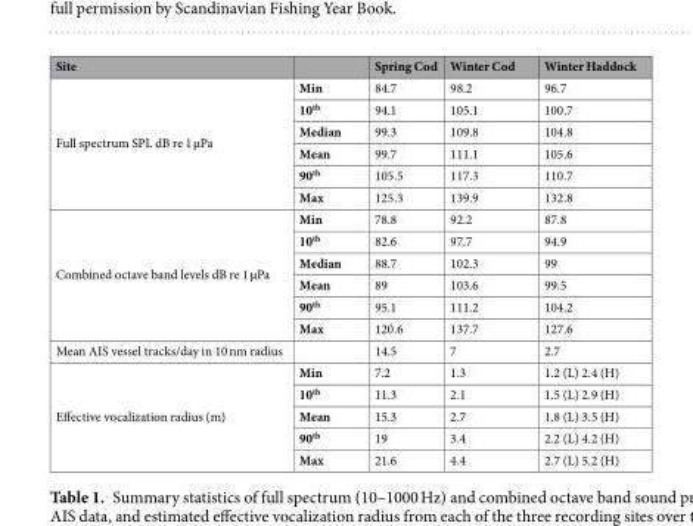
<table><thead><tr><td>Site</td><td></td><td>Spring Cod</td><td>Winter Cod</td><td>Winter Haddock</td></tr></thead><tbody><tr><td rowspan="6">Full spectrum SPL dB re 1 µPa</td><td>Min</td><td>84.7</td><td>98.2</td><td>96.7</td></tr><tr><td>10<sup>th</sup></td><td>94.1</td><td>105.1</td><td>100.7</td></tr><tr><td>Median</td><td>99.3</td><td>109.8</td><td>104.8</td></tr><tr><td>Mean</td><td>99.7</td><td>111.1</td><td>105.6</td></tr><tr><td>90<sup>th</sup></td><td>105.5</td><td>117.3</td><td>110.7</td></tr><tr><td>Max</td><td>125.3</td><td>139.9</td><td>132.8</td></tr><tr><td rowspan="6">Combined octave band levels dB re 1 µPa</td><td>Min</td><td>78.8</td><td>92.2</td><td>87.8</td></tr><tr><td>10<sup>th</sup></td><td>82.6</td><td>97.7</td><td>94.9</td></tr><tr><td>Median</td><td>88.7</td><td>102.3</td><td>99</td></tr><tr><td>Mean</td><td>89</td><td>103.6</td><td>99.5</td></tr><tr><td>90<sup>th</sup></td><td>95.1</td><td>111.2</td><td>104.2</td></tr><tr><td>Max</td><td>120.6</td><td>137.7</td><td>127.6</td></tr><tr><td>Mean AIS vessel tracks/day in 10 nm radius</td><td></td><td>14.5</td><td>7</td><td>2.7</td></tr><tr><td rowspan="5">Effective vocalization radius (m)</td><td>Min</td><td>7.2</td><td>1.3</td><td>1.2 (L) 2.4 (H)</td></tr><tr><td>10<sup>th</sup></td><td>11.3</td><td>2.1</td><td>1.5 (L) 2.9 (H)</td></tr><tr><td>Mean</td><td>15.3</td><td>2.7</td><td>1.8 (L) 3.5 (H)</td></tr><tr><td>90<sup>th</sup></td><td>19</td><td>3.4</td><td>2.2 (L) 4.2 (H)</td></tr><tr><td>Max</td><td>21.6</td><td>4.4</td><td>2.7 (L) 5.2 (H)</td></tr></tbody></table>